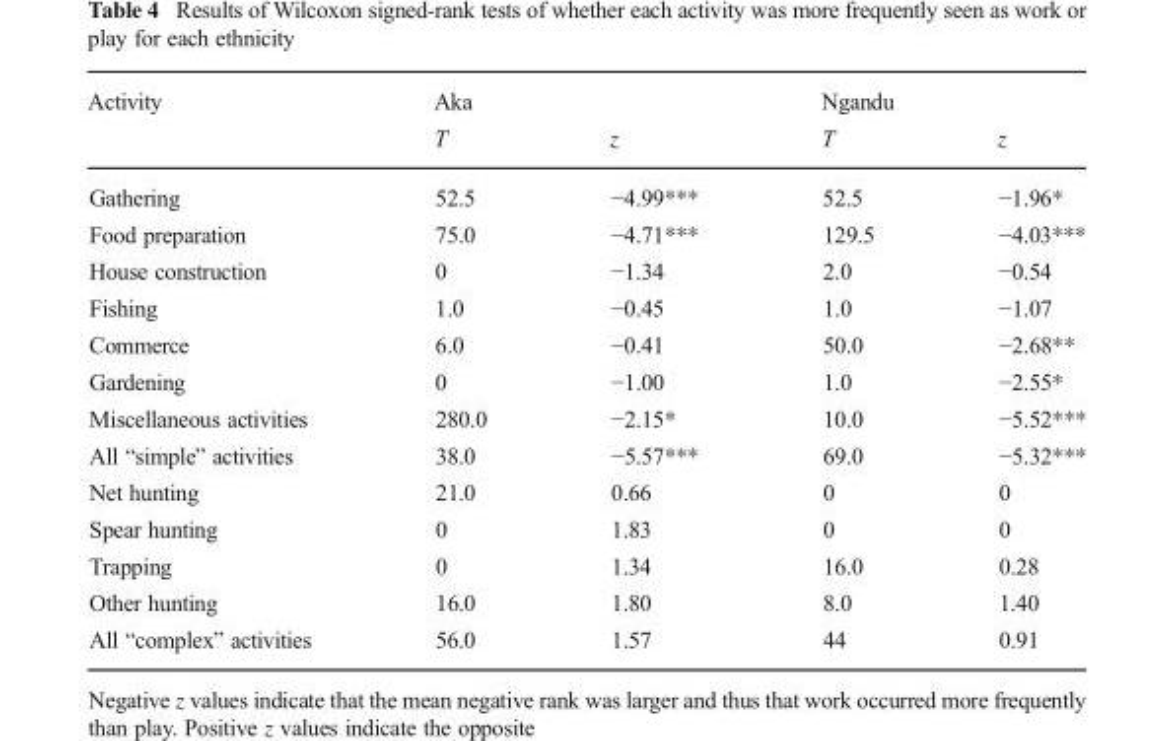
<table><thead><tr><td rowspan="2">Activity</td><td colspan="2">Aka</td><td colspan="2">Ngandu</td></tr><tr><td>T</td><td>z</td><td>T</td><td>z</td></tr></thead><tbody><tr><td>Gathering</td><td>52.5</td><td>−4.99***</td><td>52.5</td><td>−1.96*</td></tr><tr><td>Food preparation</td><td>75.0</td><td>−4.71***</td><td>129.5</td><td>−4.03***</td></tr><tr><td>House construction</td><td>0</td><td>−1.34</td><td>2.0</td><td>−0.54</td></tr><tr><td>Fishing</td><td>1.0</td><td>−0.45</td><td>1.0</td><td>−1.07</td></tr><tr><td>Commerce</td><td>6.0</td><td>−0.41</td><td>50.0</td><td>−2.68**</td></tr><tr><td>Gardening</td><td>0</td><td>−1.00</td><td>1.0</td><td>−2.55*</td></tr><tr><td>Miscellaneous activities</td><td>280.0</td><td>−2.15*</td><td>10.0</td><td>−5.52***</td></tr><tr><td>All “simple” activities</td><td>38.0</td><td>−5.57***</td><td>69.0</td><td>−5.32***</td></tr><tr><td>Net hunting</td><td>21.0</td><td>0.66</td><td>0</td><td>0</td></tr><tr><td>Spear hunting</td><td>0</td><td>1.83</td><td>0</td><td>0</td></tr><tr><td>Trapping</td><td>0</td><td>1.34</td><td>16.0</td><td>0.28</td></tr><tr><td>Other hunting</td><td>16.0</td><td>1.80</td><td>8.0</td><td>1.40</td></tr><tr><td>All “complex” activities</td><td>56.0</td><td>1.57</td><td>44</td><td>0.91</td></tr></tbody></table>